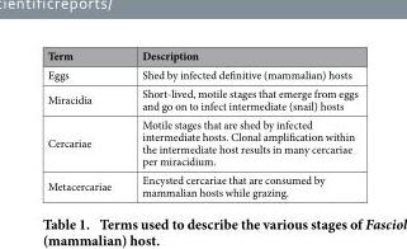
<table><thead><tr><td>Term</td><td>Description</td></tr></thead><tbody><tr><td>Eggs</td><td>Shed by infected definitive (mammalian) hosts</td></tr><tr><td>Miracidia</td><td>Short-lived, motile stages that emerge from eggs and go on to infect intermediate (snail) hosts</td></tr><tr><td>Cercariae</td><td>Motile stages that are shed by infected intermediate hosts. Clonal amplification within the intermediate host results in many cercariae per miracidium.</td></tr><tr><td>Metacercariae</td><td>Encysted cercariae that are consumed by mammalian hosts while grazing.</td></tr></tbody></table>